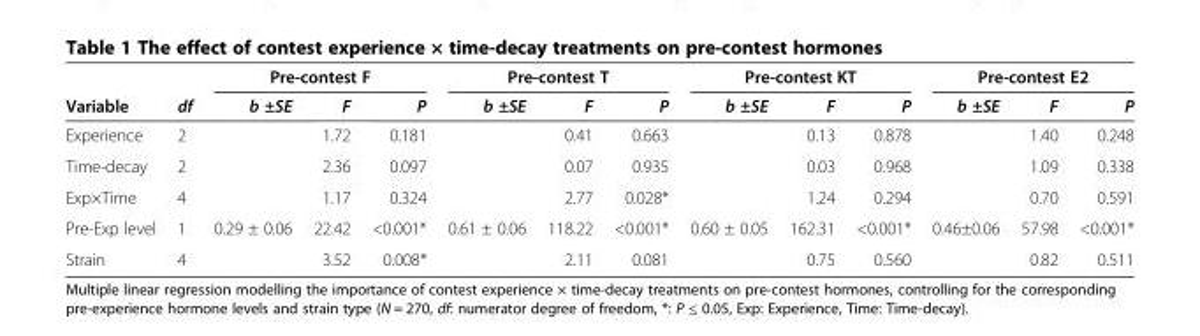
<table><thead><tr><td rowspan="2">Variable</td><td rowspan="2">df</td><td colspan="3">Pre-contest F</td><td colspan="3">Pre-contest T</td><td colspan="3">Pre-contest KT</td><td colspan="3">Pre-contest E2</td></tr><tr><td>b ±SE</td><td>F</td><td>P</td><td>b ±SE</td><td>F</td><td>P</td><td>b ±SE</td><td>F</td><td>P</td><td>b ±SE</td><td>F</td><td>P</td></tr></thead><tbody><tr><td>Experience</td><td>2</td><td></td><td>1.72</td><td>0.181</td><td></td><td>0.41</td><td>0.663</td><td></td><td>0.13</td><td>0.878</td><td></td><td>1.40</td><td>0.248</td></tr><tr><td>Time-decay</td><td>2</td><td></td><td>2.36</td><td>0.097</td><td></td><td>0.07</td><td>0.935</td><td></td><td>0.03</td><td>0.968</td><td></td><td>1.09</td><td>0.338</td></tr><tr><td>Exp×Time</td><td>4</td><td></td><td>1.17</td><td>0.324</td><td></td><td>2.77</td><td>0.028*</td><td></td><td>1.24</td><td>0.294</td><td></td><td>0.70</td><td>0.591</td></tr><tr><td>Pre-Exp level</td><td>1</td><td>0.29 ± 0.06</td><td>22.42</td><td>&lt;0.001*</td><td>0.61 ± 0.06</td><td>118.22</td><td>&lt;0.001*</td><td>0.60 ± 0.05</td><td>162.31</td><td>&lt;0.001*</td><td>0.46±0.06</td><td>57.98</td><td>&lt;0.001*</td></tr><tr><td>Strain</td><td>4</td><td></td><td>3.52</td><td>0.008*</td><td></td><td>2.11</td><td>0.081</td><td></td><td>0.75</td><td>0.560</td><td></td><td>0.82</td><td>0.511</td></tr></tbody></table>